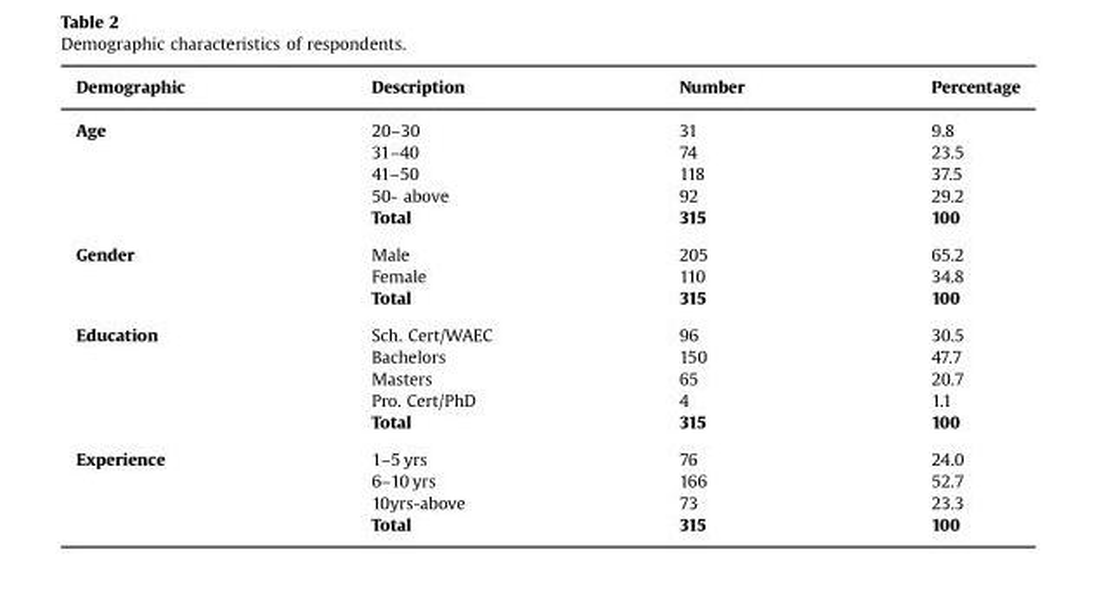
<table><thead><tr><td>Demographic</td><td>Description</td><td>Number</td><td>Percentage</td></tr></thead><tbody><tr><td rowspan="5">Age</td><td>20–30</td><td>31</td><td>9.8</td></tr><tr><td>31–40</td><td>74</td><td>23.5</td></tr><tr><td>41–50</td><td>118</td><td>37.5</td></tr><tr><td>50- above</td><td>92</td><td>29.2</td></tr><tr><td>Total</td><td>315</td><td>100</td></tr><tr><td rowspan="3">Gender</td><td>Male</td><td>205</td><td>65.2</td></tr><tr><td>Female</td><td>110</td><td>34.8</td></tr><tr><td>Total</td><td>315</td><td>100</td></tr><tr><td rowspan="5">Education</td><td>Sch. Cert/WAEC</td><td>96</td><td>30.5</td></tr><tr><td>Bachelors</td><td>150</td><td>47.7</td></tr><tr><td>Masters</td><td>65</td><td>20.7</td></tr><tr><td>Pro. Cert/PhD</td><td>4</td><td>1.1</td></tr><tr><td>Total</td><td>315</td><td>100</td></tr><tr><td rowspan="4">Experience</td><td>1–5 yrs</td><td>76</td><td>24.0</td></tr><tr><td>6–10 yrs</td><td>166</td><td>52.7</td></tr><tr><td>10yrs-above</td><td>73</td><td>23.3</td></tr><tr><td>Total</td><td>315</td><td>100</td></tr></tbody></table>